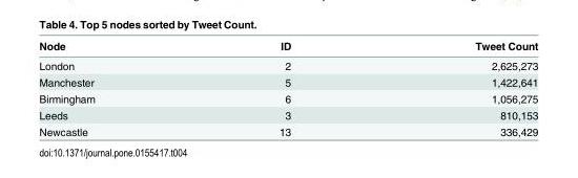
<table><thead><tr><td>Node</td><td>ID</td><td>Tweet Count</td></tr></thead><tbody><tr><td>London</td><td>2</td><td>2,625,273</td></tr><tr><td>Manchester</td><td>5</td><td>1,422,641</td></tr><tr><td>Birmingham</td><td>6</td><td>1,056,275</td></tr><tr><td>Leeds</td><td>3</td><td>810,153</td></tr><tr><td>Newcastle</td><td>13</td><td>336,429</td></tr></tbody></table>